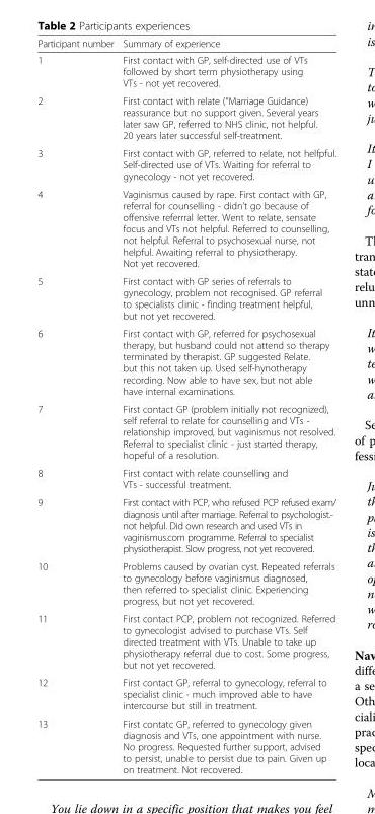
<table><thead><tr><td>Participant number</td><td>Summary of experience</td></tr></thead><tbody><tr><td>1</td><td>First contact with GP, self-directed use of VTs followed by short term physiotherapy using VTs - not yet recovered.</td></tr><tr><td>2</td><td>First contact with relate (“Marriage Guidance) reassurance but no support given. Several years later saw GP, referred to NHS clinic, not helpful. 20 years later successful self-treatment.</td></tr><tr><td>3</td><td>First contact with GP, referred to relate, not helfpful. Self-directed use of VTs. Waiting for referral to gynecology - not yet recovered.</td></tr><tr><td>4</td><td>Vaginismus caused by rape. First contact with GP, referral for counselling - didn’t go because of offensive referrral letter. Went to relate, sensate focus and VTs not helpful. Referred to counselling, not helpful. Referral to psychosexual nurse, not helpful. Awaiting referral to physiotherapy. Not yet recovered.</td></tr><tr><td>5</td><td>First contact with GP series of referrals to gynecology, problem not recognised. GP referral to specialists clinic - finding treatment helpful, but not yet recovered.</td></tr><tr><td>6</td><td>First contact with GP, referred for psychosexual therapy, but husband could not attend so therapy terminated by therapist. GP suggested Relate. but this not taken up. Used self-hynotherapy recording. Now able to have sex, but not able have internal examinations.</td></tr><tr><td>7</td><td>First contact GP (problem initially not recognized), self referral to relate for counselling and VTs - relationship improved, but vaginismus not resolved. Referral to specialist clinic - just started therapy, hopeful of a resolution.</td></tr><tr><td>8</td><td>First contact with relate counselling and VTs - successful treatment.</td></tr><tr><td>9</td><td>First contact with PCP, who refused PCP refused exam/ diagnosis until after marriage. Referral to psychologist.- not helpful. Did own research and used VTs in vaginismus.com programme. Referral to specialist physiotherapist. Slow progress, not yet recovered.</td></tr><tr><td>10</td><td>Problems caused by ovarian cyst. Repeated referrals to gynecology before vaginismus diagnosed, then referred to specialist clinic. Experiencing progress, but not yet recovered.</td></tr><tr><td>11</td><td>First contact PCP, problem not recognized. Referred to gynecologist advised to purchase VTs. Self directed treatment with VTs. Unable to take up physiotherapy referral due to cost. Some progress, but not yet recovered.</td></tr><tr><td>12</td><td>First contact GP, referral to gynecology, referral to specialist clinic - much improved able to have intercourse but still in treatment.</td></tr><tr><td>13</td><td>First contatc GP, referred to gynecology given diagnosis and VTs, one appointment with nurse. No progress. Requested further support, advised to persist, unable to persist due to pain. Given up on treatment. Not recovered.</td></tr></tbody></table>